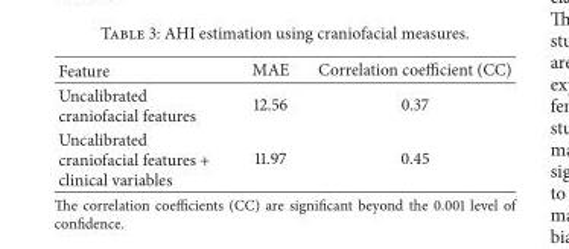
<table><thead><tr><td>Feature</td><td>MAE</td><td>Correlation coefficient (CC)</td></tr></thead><tbody><tr><td>Uncalibrated craniofacial features</td><td>12.56</td><td>0.37</td></tr><tr><td>Uncalibrated craniofacial features + clinical variables</td><td>11.97</td><td>0.45</td></tr></tbody></table>